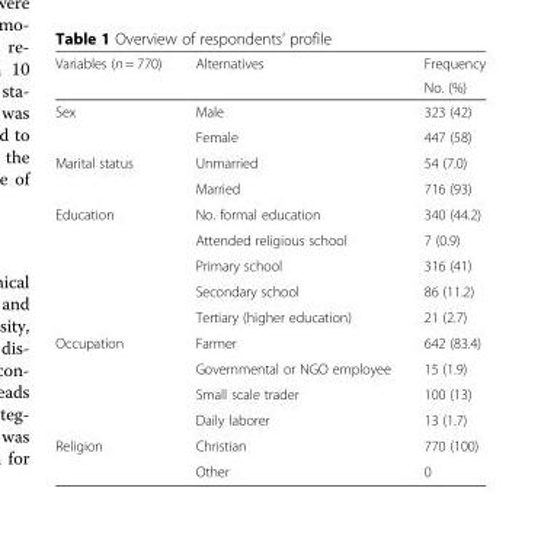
<table><thead><tr><td rowspan="2">Variables (n = 770)</td><td rowspan="2">Alternatives</td><td rowspan="2">Frequency No. (%)</td></tr><tr></tr></thead><tbody><tr><td rowspan="2">Sex</td><td>Male</td><td>323 (42)</td></tr><tr><td>Female</td><td>447 (58)</td></tr><tr><td rowspan="2">Marital status</td><td>Unmarried</td><td>54 (7.0)</td></tr><tr><td>Married</td><td>716 (93)</td></tr><tr><td rowspan="5">Education</td><td>No. formal education</td><td>340 (44.2)</td></tr><tr><td>Attended religious school</td><td>7 (0.9)</td></tr><tr><td>Primary school</td><td>316 (41)</td></tr><tr><td>Secondary school</td><td>86 (11.2)</td></tr><tr><td>Tertiary (higher education)</td><td>21 (2.7)</td></tr><tr><td rowspan="4">Occupation</td><td>Farmer</td><td>642 (83.4)</td></tr><tr><td>Governmental or NGO employee</td><td>15 (1.9)</td></tr><tr><td>Small scale trader</td><td>100 (13)</td></tr><tr><td>Daily laborer</td><td>13 (1.7)</td></tr><tr><td rowspan="2">Religion</td><td>Christian</td><td>770 (100)</td></tr><tr><td>Other</td><td>0</td></tr></tbody></table>